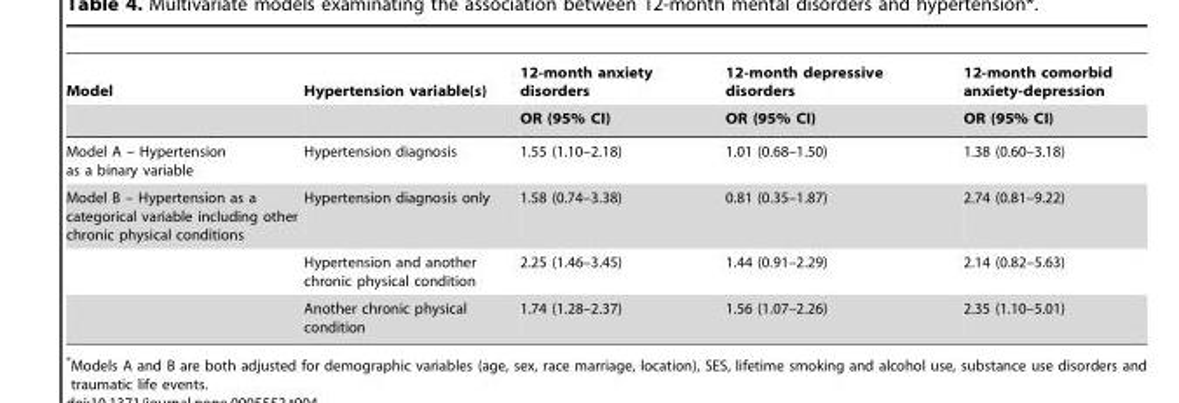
<table><thead><tr><td rowspan="2">Model</td><td rowspan="2">Hypertension variable(s)</td><td rowspan="2">12-month anxiety disorders OR (95% CI)</td><td rowspan="2">12-month depressive disorders OR (95% CI)</td><td rowspan="2">12-month comorbid anxiety-depression OR (95% CI)</td></tr><tr></tr></thead><tbody><tr><td>Model A – Hypertension as a binary variable</td><td>Hypertension diagnosis</td><td>1.55 (1.10–2.18)</td><td>1.01 (0.68–1.50)</td><td>1.38 (0.60–3.18)</td></tr><tr><td rowspan="3">Model B – Hypertension as a categorical variable including other chronic physical conditions</td><td>Hypertension diagnosis only</td><td>1.58 (0.74–3.38)</td><td>0.81 (0.35–1.87)</td><td>2.74 (0.81–9.22)</td></tr><tr><td>Hypertension and another chronic physical condition</td><td>2.25 (1.46–3.45)</td><td>1.44 (0.91–2.29)</td><td>2.14 (0.82–5.63)</td></tr><tr><td>Another chronic physical condition</td><td>1.74 (1.28–2.37)</td><td>1.56 (1.07–2.26)</td><td>2.35 (1.10–5.01)</td></tr></tbody></table>